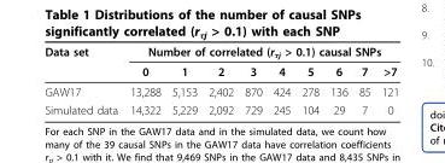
<table><thead><tr><td rowspan="2">Data set</td><td colspan="9">Number of correlated (r<sub>τj</sub> &gt; 0.1) causal SNPs</td></tr><tr><td>0</td><td>1</td><td>2</td><td>3</td><td>4</td><td>5</td><td>6</td><td>7</td><td>&gt;7</td></tr></thead><tbody><tr><td>GAW17</td><td>13,288</td><td>5,153</td><td>2,402</td><td>870</td><td>424</td><td>278</td><td>136</td><td>85</td><td>121</td></tr><tr><td>Simulated data</td><td>14,322</td><td>5,229</td><td>2,092</td><td>729</td><td>245</td><td>104</td><td>29</td><td>7</td><td>0</td></tr></tbody></table>